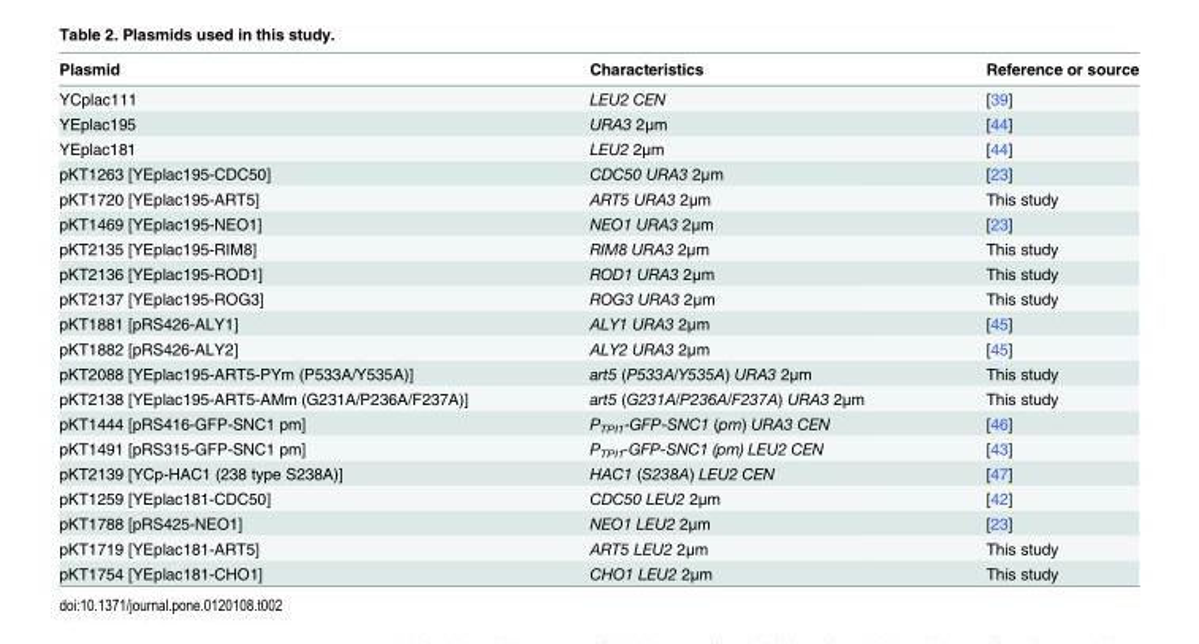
<table><thead><tr><td>Plasmid</td><td>Characteristics</td><td>Reference or source</td></tr></thead><tbody><tr><td>YCplac111</td><td>LEU2 CEN</td><td>[39]</td></tr><tr><td>YEplac195</td><td>URA3 2μm</td><td>[44]</td></tr><tr><td>YEplac181</td><td>LEU2 2μm</td><td>[44]</td></tr><tr><td>pKT1263 [YEplac195-CDC50]</td><td>CDC50 URA3 2μm</td><td>[23]</td></tr><tr><td>pKT1720 [YEplac195-ART5]</td><td>ART5 URA3 2μm</td><td>This study</td></tr><tr><td>pKT1469 [YEplac195-NEO1]</td><td>NEO1 URA3 2μm</td><td>[23]</td></tr><tr><td>pKT2135 [YEplac195-RIM8]</td><td>RIM8 URA3 2μm</td><td>This study</td></tr><tr><td>pKT2136 [YEplac195-ROD1]</td><td>ROD1 URA3 2μm</td><td>This study</td></tr><tr><td>pKT2137 [YEplac195-ROG3]</td><td>ROG3 URA3 2μm</td><td>This study</td></tr><tr><td>pKT1881 [pRS426-ALY1]</td><td>ALY1 URA3 2μm</td><td>[45]</td></tr><tr><td>pKT1882 [pRS426-ALY2]</td><td>ALY2 URA3 2μm</td><td>[45]</td></tr><tr><td>pKT2088 [YEplac195-ART5-PYm (P533A/Y535A)]</td><td>art5 (P533A/Y535A) URA3 2μm</td><td>This study</td></tr><tr><td>pKT2138 [YEplac195-ART5-AMm (G231A/P236A/F237A)]</td><td>art5 (G231A/P236A/F237A) URA3 2μm</td><td>This study</td></tr><tr><td>pKT1444 [pRS416-GFP-SNC1 pm]</td><td>P<sub>TPI1</sub>-GFP-SNC1 (pm) URA3 CEN</td><td>[46]</td></tr><tr><td>pKT1491 [pRS315-GFP-SNC1 pm]</td><td>P<sub>TPI1</sub>-GFP-SNC1 (pm) LEU2 CEN</td><td>[43]</td></tr><tr><td>pKT2139 [YCp-HAC1 (238 type S238A)]</td><td>HAC1 (S238A) LEU2 CEN</td><td>[47]</td></tr><tr><td>pKT1259 [YEplac181-CDC50]</td><td>CDC50 LEU2 2μm</td><td>[42]</td></tr><tr><td>pKT1788 [pRS425-NEO1]</td><td>NEO1 LEU2 2μm</td><td>[23]</td></tr><tr><td>pKT1719 [YEplac181-ART5]</td><td>ART5 LEU2 2μm</td><td>This study</td></tr><tr><td>pKT1754 [YEplac181-CHO1]</td><td>CHO1 LEU2 2μm</td><td>This study</td></tr></tbody></table>